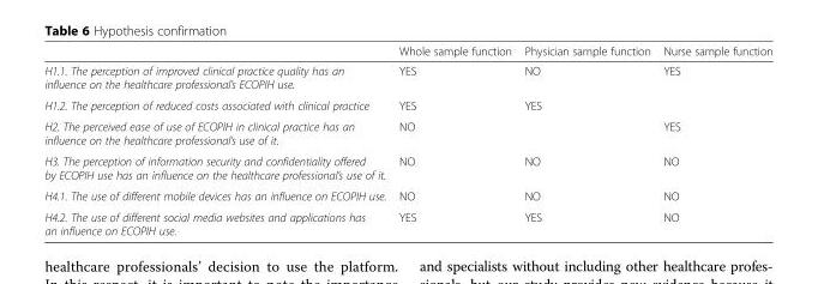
<table><thead><tr><td></td><td>Whole sample function</td><td>Physician sample function</td><td>Nurse sample function</td></tr></thead><tbody><tr><td>H1.1. The perception of improved clinical practice quality has an influence on the healthcare professional’s ECOPIH use.</td><td>YES</td><td>NO</td><td>YES</td></tr><tr><td>H1.2. The perception of reduced costs associated with clinical practice</td><td>YES</td><td>YES</td><td></td></tr><tr><td>H2. The perceived ease of use of ECOPIH in clinical practice has an influence on the healthcare professional’s use of it.</td><td>NO</td><td></td><td>YES</td></tr><tr><td>H3. The perception of information security and confidentiality offered by ECOPIH use has an influence on the healthcare professional’s use of it.</td><td>NO</td><td>NO</td><td>NO</td></tr><tr><td>H4.1. The use of different mobile devices has an influence on ECOPIH use.</td><td>NO</td><td>NO</td><td>NO</td></tr><tr><td>H4.2. The use of different social media websites and applications has an influence on ECOPIH use.</td><td>YES</td><td>YES</td><td>NO</td></tr></tbody></table>